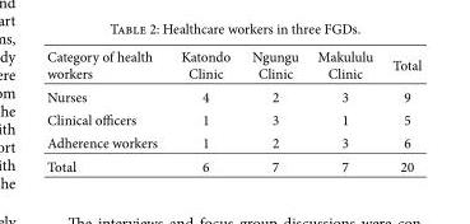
<table><thead><tr><td>Category of health workers</td><td>Katondo Clinic</td><td>Ngungu Clinic</td><td>Makululu Clinic</td><td>Total</td></tr></thead><tbody><tr><td>Nurses</td><td>4</td><td>2</td><td>3</td><td>9</td></tr><tr><td>Clinical officers</td><td>1</td><td>3</td><td>1</td><td>5</td></tr><tr><td>Adherence workers</td><td>1</td><td>2</td><td>3</td><td>6</td></tr><tr><td>Total</td><td>6</td><td>7</td><td>7</td><td>20</td></tr></tbody></table>